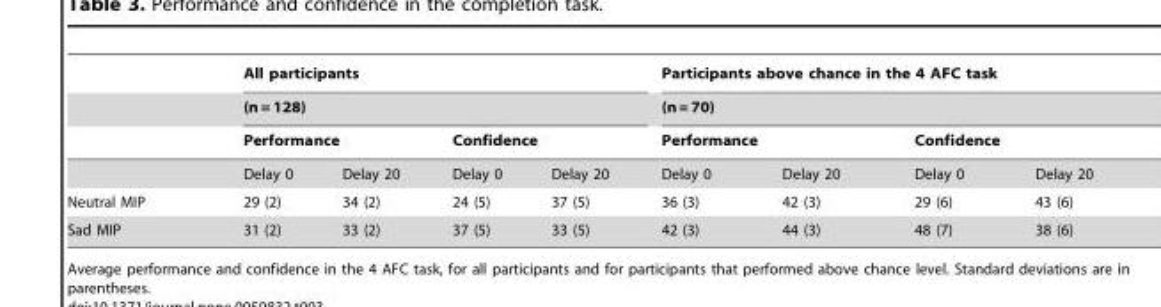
<table><thead><tr><td rowspan="4"></td><td rowspan="2" colspan="4">All participants (n = 128)</td><td rowspan="2" colspan="4">Participants above chance in the 4 AFC task (n = 70)</td></tr><tr></tr><tr><td colspan="2">Performance</td><td colspan="2">Confidence</td><td colspan="2">Performance</td><td colspan="2">Confidence</td></tr><tr><td>Delay 0</td><td>Delay 20</td><td>Delay 0</td><td>Delay 20</td><td>Delay 0</td><td>Delay 20</td><td>Delay 0</td><td>Delay 20</td></tr></thead><tbody><tr><td>Neutral MIP</td><td>29 (2)</td><td>34 (2)</td><td>24 (5)</td><td>37 (5)</td><td>36 (3)</td><td>42 (3)</td><td>29 (6)</td><td>43 (6)</td></tr><tr><td>Sad MIP</td><td>31 (2)</td><td>33 (2)</td><td>37 (5)</td><td>33 (5)</td><td>42 (3)</td><td>44 (3)</td><td>48 (7)</td><td>38 (6)</td></tr></tbody></table>